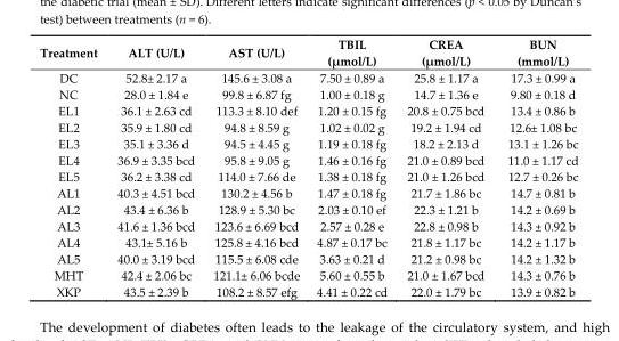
<table><thead><tr><td>Treatment</td><td>ALT (U/L)</td><td>AST (U/L)</td><td>TBIL (μmol/L)</td><td>CREA (μmol/L)</td><td>BUN (mmol/L)</td></tr></thead><tbody><tr><td>DC</td><td>52.8± 2.17 a</td><td>145.6 ± 3.08 a</td><td>7.50 ± 0.89 a</td><td>25.8 ± 1.17 a</td><td>17.3 ± 0.99 a</td></tr><tr><td>NC</td><td>28.0 ± 1.84 e</td><td>99.8 ± 6.87 fg</td><td>1.00 ± 0.18 g</td><td>14.7 ± 1.36 e</td><td>9.80 ± 0.18 d</td></tr><tr><td>EL1</td><td>36.1 ± 2.63 cd</td><td>113.3 ± 8.10 def</td><td>1.20 ± 0.15 fg</td><td>20.8 ± 0.75 bcd</td><td>13.4 ± 0.86 b</td></tr><tr><td>EL2</td><td>35.9 ± 1.80 cd</td><td>94.8 ± 8.59 g</td><td>1.02 ± 0.02 g</td><td>19.2 ± 1.94 cd</td><td>12.6± 1.08 bc</td></tr><tr><td>EL3</td><td>35.1 ± 3.36 d</td><td>94.5 ± 4.45 g</td><td>1.19 ± 0.18 fg</td><td>18.2 ± 2.13 d</td><td>13.1 ± 1.26 bc</td></tr><tr><td>EL4</td><td>36.9 ± 3.35 bcd</td><td>95.8 ± 9.05 g</td><td>1.46 ± 0.16 fg</td><td>21.0 ± 0.89 bcd</td><td>11.0 ± 1.17 cd</td></tr><tr><td>EL5</td><td>36.2 ± 3.38 cd</td><td>114.0 ± 7.66 de</td><td>1.38 ± 0.18 fg</td><td>21.0 ± 1.26 bcd</td><td>12.7 ± 0.26 bc</td></tr><tr><td>AL1</td><td>40.3 ± 4.51 bcd</td><td>130.2 ± 4.56 b</td><td>1.47 ± 0.18 fg</td><td>21.7 ± 1.86 bc</td><td>14.7 ± 0.81 b</td></tr><tr><td>AL2</td><td>43.4 ± 6.36 b</td><td>128.9 ± 5.30 bc</td><td>2.03 ± 0.10 ef</td><td>22.3 ± 1.21 b</td><td>14.2 ± 0.69 b</td></tr><tr><td>AL3</td><td>41.6 ± 1.36 bcd</td><td>123.6 ± 6.69 bcd</td><td>2.57 ± 0.28 e</td><td>22.8 ± 0.98 b</td><td>14.3 ± 0.92 b</td></tr><tr><td>AL4</td><td>43.1± 5.16 b</td><td>125.8 ± 4.16 bcd</td><td>4.87 ± 0.17 bc</td><td>21.8 ± 1.17 bc</td><td>14.2 ± 1.17 b</td></tr><tr><td>AL5</td><td>40.0 ± 3.19 bcd</td><td>115.5 ± 6.08 cde</td><td>3.63 ± 0.21 d</td><td>21.2 ± 0.98 bc</td><td>14.2 ± 1.32 b</td></tr><tr><td>MHT</td><td>42.4 ± 2.06 bc</td><td>121.1± 6.06 bcde</td><td>5.60 ± 0.55 b</td><td>21.0 ± 1.67 bcd</td><td>14.3 ± 0.76 b</td></tr><tr><td>XKP</td><td>43.5 ± 2.39 b</td><td>108.2 ± 8.57 efg</td><td>4.41 ± 0.22 cd</td><td>22.0 ± 1.79 bc</td><td>13.9 ± 0.82 b</td></tr></tbody></table>